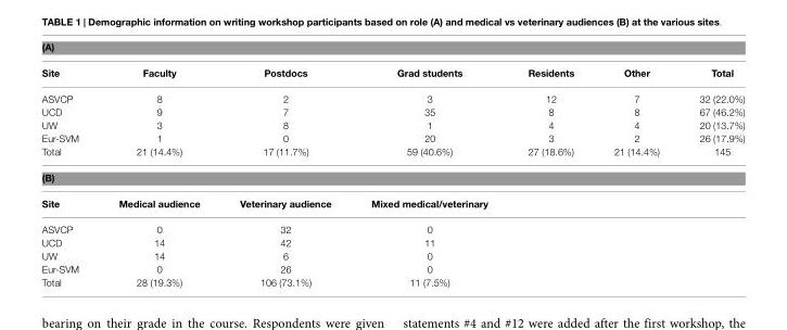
<table><thead><tr><td colspan="7">(A)</td></tr><tr><td>Site</td><td>Faculty</td><td>Postdocs</td><td>Grad students</td><td>Residents</td><td>Other</td><td>Total</td></tr></thead><tbody><tr><td>ASVCP</td><td>8</td><td>2</td><td>3</td><td>12</td><td>7</td><td>32 (22.0%)</td></tr><tr><td>UCD</td><td>9</td><td>7</td><td>35</td><td>8</td><td>8</td><td>67 (46.2%)</td></tr><tr><td>UW</td><td>3</td><td>8</td><td>1</td><td>4</td><td>4</td><td>20 (13.7%)</td></tr><tr><td>Eur-SVM</td><td>1</td><td>0</td><td>20</td><td>3</td><td>2</td><td>26 (17.9%)</td></tr><tr><td>Total</td><td>21 (14.4%)</td><td>17 (11.7%)</td><td>59 (40.6%)</td><td>27 (18.6%)</td><td>21 (14.4%)</td><td>145</td></tr><tr><td colspan="7">(B)</td></tr><tr><td>Site</td><td>Medical audience</td><td>Veterinary audience</td><td>Mixed medical/veterinary</td><td></td><td></td><td></td></tr><tr><td>ASVCP</td><td>0</td><td>32</td><td>0</td><td></td><td></td><td></td></tr><tr><td>UCD</td><td>14</td><td>42</td><td>11</td><td></td><td></td><td></td></tr><tr><td>UW</td><td>14</td><td>6</td><td>0</td><td></td><td></td><td></td></tr><tr><td>Eur-SVM</td><td>0</td><td>26</td><td>0</td><td></td><td></td><td></td></tr><tr><td>Total</td><td>28 (19.3%)</td><td>106 (73.1%)</td><td>11 (7.5%)</td><td></td><td></td><td></td></tr></tbody></table>